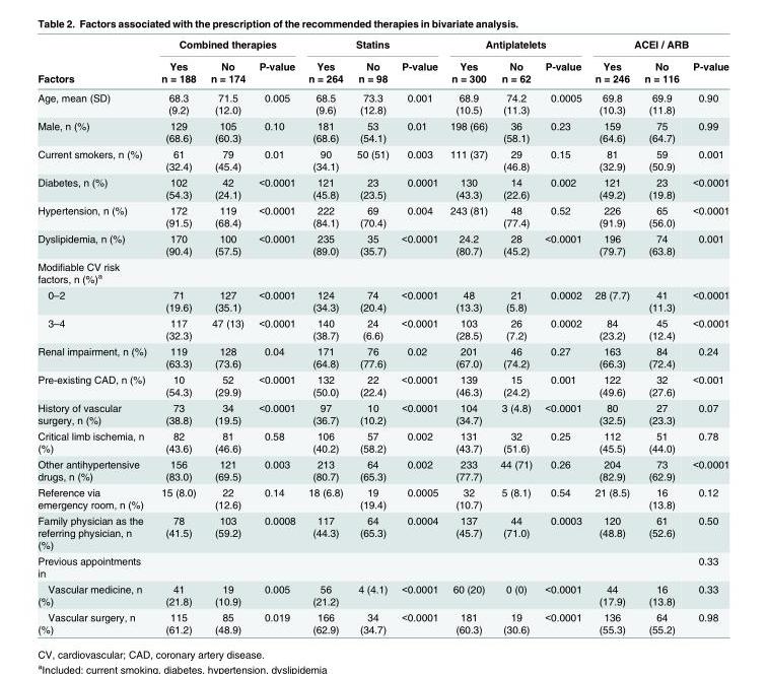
<table><thead><tr><td rowspan="3">Factors</td><td colspan="3">Combined therapies</td><td colspan="3">Statins</td><td colspan="3">Antiplatelets</td><td colspan="3">ACEI / ARB</td></tr><tr><td rowspan="2">Yes n = 188</td><td rowspan="2">No n = 174</td><td rowspan="2">P-value</td><td rowspan="2">Yes n = 264</td><td rowspan="2">No n = 98</td><td rowspan="2">P-value</td><td rowspan="2">Yes n = 300</td><td rowspan="2">No n = 62</td><td rowspan="2">P-value</td><td rowspan="2">Yes n = 246</td><td rowspan="2">No n = 116</td><td rowspan="2">P-value</td></tr><tr></tr></thead><tbody><tr><td>Age, mean (SD)</td><td>68.3 (9.2)</td><td>71.5 (12.0)</td><td>0.005</td><td>68.5 (9.6)</td><td>73.3 (12.8)</td><td>0.001</td><td>68.9 (10.5)</td><td>74.2 (11.3)</td><td>0.0005</td><td>69.8 (10.3)</td><td>69.9 (11.8)</td><td>0.90</td></tr><tr><td>Male, n (%)</td><td>129 (68.6)</td><td>105 (60.3)</td><td>0.10</td><td>181 (68.6)</td><td>53 (54.1)</td><td>0.01</td><td>198 (66)</td><td>36 (58.1)</td><td>0.23</td><td>159 (64.6)</td><td>75 (64.7)</td><td>0.99</td></tr><tr><td>Current smokers, n (%)</td><td>61 (32.4)</td><td>79 (45.4)</td><td>0.01</td><td>90 (34.1)</td><td>50 (51)</td><td>0.003</td><td>111 (37)</td><td>29 (46.8)</td><td>0.15</td><td>81 (32.9)</td><td>59 (50.9)</td><td>0.001</td></tr><tr><td>Diabetes, n (%)</td><td>102 (54.3)</td><td>42 (24.1)</td><td>&lt;0.0001</td><td>121 (45.8)</td><td>23 (23.5)</td><td>0.0001</td><td>130 (43.3)</td><td>14 (22.6)</td><td>0.002</td><td>121 (49.2)</td><td>23 (19.8)</td><td>&lt;0.0001</td></tr><tr><td>Hypertension, n (%)</td><td>172 (91.5)</td><td>119 (68.4)</td><td>&lt;0.0001</td><td>222 (84.1)</td><td>69 (70.4)</td><td>0.004</td><td>243 (81)</td><td>48 (77.4)</td><td>0.52</td><td>226 (91.9)</td><td>65 (56.0)</td><td>&lt;0.0001</td></tr><tr><td>Dyslipidemia, n (%)</td><td>170 (90.4)</td><td>100 (57.5)</td><td>&lt;0.0001</td><td>235 (89.0)</td><td>35 (35.7)</td><td>&lt;0.0001</td><td>24.2 (80.7)</td><td>28 (45.2)</td><td>&lt;0.0001</td><td>196 (79.7)</td><td>74 (63.8)</td><td>0.001</td></tr><tr><td colspan="13">Modifiable CV risk factors, n (%)<sup>a</sup></td></tr><tr><td>0–2</td><td>71 (19.6)</td><td>127 (35.1)</td><td>&lt;0.0001</td><td>124 (34.3)</td><td>74 (20.4)</td><td>&lt;0.0001</td><td>48 (13.3)</td><td>21 (5.8)</td><td>0.0002</td><td>28 (7.7)</td><td>41 (11.3)</td><td>&lt;0.0001</td></tr><tr><td>3–4</td><td>117 (32.3)</td><td>47 (13)</td><td>&lt;0.0001</td><td>140 (38.7)</td><td>24 (6.6)</td><td>&lt;0.0001</td><td>103 (28.5)</td><td>26 (7.2)</td><td>0.0002</td><td>84 (23.2)</td><td>45 (12.4)</td><td>&lt;0.0001</td></tr><tr><td>Renal impairment, n (%)</td><td>119 (63.3)</td><td>128 (73.6)</td><td>0.04</td><td>171 (64.8)</td><td>76 (77.6)</td><td>0.02</td><td>201 (67.0)</td><td>46 (74.2)</td><td>0.27</td><td>163 (66.3)</td><td>84 (72.4)</td><td>0.24</td></tr><tr><td>Pre-existing CAD, n (%)</td><td>10 (54.3)</td><td>52 (29.9)</td><td>&lt;0.0001</td><td>132 (50.0)</td><td>22 (22.4)</td><td>&lt;0.0001</td><td>139 (46.3)</td><td>15 (24.2)</td><td>0.001</td><td>122 (49.6)</td><td>32 (27.6)</td><td>&lt;0.001</td></tr><tr><td>History of vascular surgery, n (%)</td><td>73 (38.8)</td><td>34 (19.5)</td><td>&lt;0.0001</td><td>97 (36.7)</td><td>10 (10.2)</td><td>&lt;0.0001</td><td>104 (34.7)</td><td>3 (4.8)</td><td>&lt;0.0001</td><td>80 (32.5)</td><td>27 (23.3)</td><td>0.07</td></tr><tr><td>Critical limb ischemia, n (%)</td><td>82 (43.6)</td><td>81 (46.6)</td><td>0.58</td><td>106 (40.2)</td><td>57 (58.2)</td><td>0.002</td><td>131 (43.7)</td><td>32 (51.6)</td><td>0.25</td><td>112 (45.5)</td><td>51 (44.0)</td><td>0.78</td></tr><tr><td>Other antihypertensive drugs, n (%)</td><td>156 (83.0)</td><td>121 (69.5)</td><td>0.003</td><td>213 (80.7)</td><td>64 (65.3)</td><td>0.002</td><td>233 (77.7)</td><td>44 (71)</td><td>0.26</td><td>204 (82.9)</td><td>73 (62.9)</td><td>&lt;0.0001</td></tr><tr><td>Reference via emergency room, n (%)</td><td>15 (8.0)</td><td>22 (12.6)</td><td>0.14</td><td>18 (6.8)</td><td>19 (19.4)</td><td>0.0005</td><td>32 (10.7)</td><td>5 (8.1)</td><td>0.54</td><td>21 (8.5)</td><td>16 (13.8)</td><td>0.12</td></tr><tr><td>Family physician as the referring physician, n (%)</td><td>78 (41.5)</td><td>103 (59.2)</td><td>0.0008</td><td>117 (44.3)</td><td>64 (65.3)</td><td>0.0004</td><td>137 (45.7)</td><td>44 (71.0)</td><td>0.0003</td><td>120 (48.8)</td><td>61 (52.6)</td><td>0.50</td></tr><tr><td>Previous appointments in</td><td></td><td></td><td></td><td></td><td></td><td></td><td></td><td></td><td></td><td></td><td></td><td>0.33</td></tr><tr><td>Vascular medicine, n (%)</td><td>41 (21.8)</td><td>19 (10.9)</td><td>0.005</td><td>56 (21.2)</td><td>4 (4.1)</td><td>&lt;0.0001</td><td>60 (20)</td><td>0 (0)</td><td>&lt;0.0001</td><td>44 (17.9)</td><td>16 (13.8)</td><td>0.33</td></tr><tr><td>Vascular surgery, n (%)</td><td>115 (61.2)</td><td>85 (48.9)</td><td>0.019</td><td>166 (62.9)</td><td>34 (34.7)</td><td>&lt;0.0001</td><td>181 (60.3)</td><td>19 (30.6)</td><td>&lt;0.0001</td><td>136 (55.3)</td><td>64 (55.2)</td><td>0.98</td></tr></tbody></table>